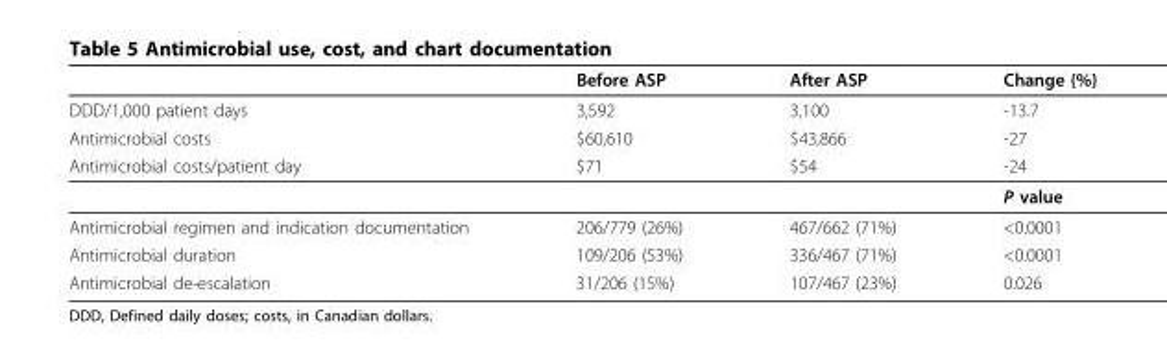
<table><thead><tr><td></td><td>Before ASP</td><td>After ASP</td><td>Change {%}</td></tr></thead><tbody><tr><td>DDD/1,000 patient days</td><td>3,592</td><td>3,100</td><td>-13.7</td></tr><tr><td>Antimicrobial costs</td><td>$60,610</td><td>$43,866</td><td>-27</td></tr><tr><td rowspan="2">Antimicrobial costs/patient day</td><td>$71</td><td>$54</td><td>-24</td></tr><tr><td></td><td></td><td>P value</td></tr><tr><td>Antimicrobial regimen and indication documentation</td><td>206/779 (26%)</td><td>467/662 (71%)</td><td>&lt;0.0001</td></tr><tr><td>Antimicrobial duration</td><td>109/206 (53%)</td><td>336/467 (71%)</td><td>&lt;0.0001</td></tr><tr><td>Antimicrobial de-escalation</td><td>31/206 (15%)</td><td>107/467 (23%)</td><td>0.026</td></tr></tbody></table>